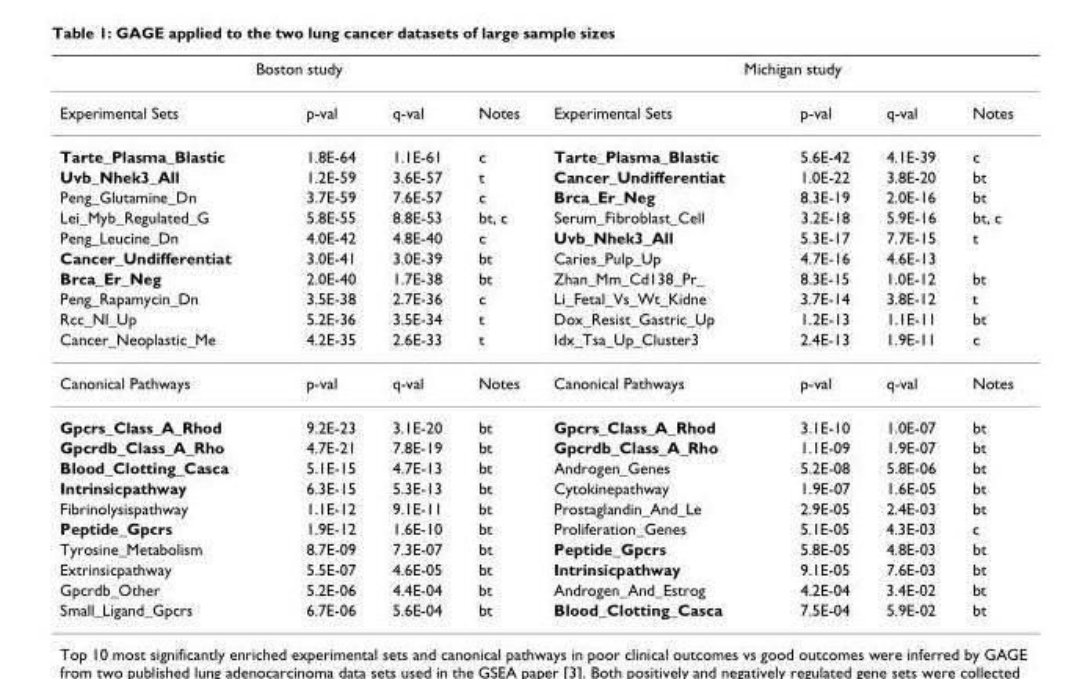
<table><thead><tr><td colspan="4">Boston study</td><td colspan="4">Michigan study</td></tr><tr><td>Experimental Sets</td><td>p-val</td><td>q-val</td><td>Notes</td><td>Experimental Sets</td><td>p-val</td><td>q-val</td><td>Notes</td></tr></thead><tbody><tr><td>Tarte_Plasma_Blastic</td><td>1.8E-64</td><td>1.1E-61</td><td>c</td><td>Tarte_Plasma_Blastic</td><td>5.6E-42</td><td>4.1E-39</td><td>c</td></tr><tr><td>Uvb_Nhek3_All</td><td>1.2E-59</td><td>3.6E-57</td><td>t</td><td>Cancer_Undifferentiat</td><td>1.0E-22</td><td>3.8E-20</td><td>bt</td></tr><tr><td>Peng_Glutamine_Dn</td><td>3.7E-59</td><td>7.6E-57</td><td>c</td><td>Brca_Er_Neg</td><td>8.3E-19</td><td>2.0E-16</td><td>bt</td></tr><tr><td>Lei_Myb_Regulated_G</td><td>5.8E-55</td><td>8.8E-53</td><td>bt, c</td><td>Serum_Fibroblast_Cell</td><td>3.2E-18</td><td>5.9E-16</td><td>bt, c</td></tr><tr><td>Peng_Leucine_Dn</td><td>4.0E-42</td><td>4.8E-40</td><td>c</td><td>Uvb_Nhek3_All</td><td>5.3E-17</td><td>7.7E-15</td><td>t</td></tr><tr><td>Cancer_Undifferentiat</td><td>3.0E-41</td><td>3.0E-39</td><td>bt</td><td>Caries_Pulp_Up</td><td>4.7E-16</td><td>4.6E-13</td><td></td></tr><tr><td>Brca_Er_Neg</td><td>2.0E-40</td><td>1.7E-38</td><td>bt</td><td>Zhan_Mm_Cd138_Pr_</td><td>8.3E-15</td><td>1.0E-12</td><td>bt</td></tr><tr><td>Peng_Rapamycin_Dn</td><td>3.5E-38</td><td>2.7E-36</td><td>c</td><td>Li_Fetal_Vs_Wt_Kidne</td><td>3.7E-14</td><td>3.8E-12</td><td>t</td></tr><tr><td>Rcc_Nl_Up</td><td>5.2E-36</td><td>3.5E-34</td><td>t</td><td>Dox_Resist_Gastric_Up</td><td>1.2E-13</td><td>1.1E-11</td><td>bt</td></tr><tr><td>Cancer_Neoplastic_Me</td><td>4.2E-35</td><td>2.6E-33</td><td>t</td><td>Idx_Tsa_Up_Cluster3</td><td>2.4E-13</td><td>1.9E-11</td><td>c</td></tr><tr><td>Canonical Pathways</td><td>p-val</td><td>q-val</td><td>Notes</td><td>Canonical Pathways</td><td>p-val</td><td>q-val</td><td>Notes</td></tr><tr><td>Gpcrs_Class_A_Rhod</td><td>9.2E-23</td><td>3.1E-20</td><td>bt</td><td>Gpcrs_Class_A_Rhod</td><td>3.1E-10</td><td>1.0E-07</td><td>bt</td></tr><tr><td>Gpcrdb_Class_A_Rho</td><td>4.7E-21</td><td>7.8E-19</td><td>bt</td><td>Gpcrdb_Class_A_Rho</td><td>1.1E-09</td><td>1.9E-07</td><td>bt</td></tr><tr><td>Blood_Clotting_Casca</td><td>5.1E-15</td><td>4.7E-13</td><td>bt</td><td>Androgen_Genes</td><td>5.2E-08</td><td>5.8E-06</td><td>bt</td></tr><tr><td>Intrinsicpathway</td><td>6.3E-15</td><td>5.3E-13</td><td>bt</td><td>Cytokinepathway</td><td>1.9E-07</td><td>1.6E-05</td><td>bt</td></tr><tr><td>Fibrinolysispathway</td><td>1.1E-12</td><td>9.1E-11</td><td>bt</td><td>Prostaglandin_And_Le</td><td>2.9E-05</td><td>2.4E-03</td><td>bt</td></tr><tr><td>Peptide_Gpcrs</td><td>1.9E-12</td><td>1.6E-10</td><td>bt</td><td>Proliferation_Genes</td><td>5.1E-05</td><td>4.3E-03</td><td>c</td></tr><tr><td>Tyrosine_Metabolism</td><td>8.7E-09</td><td>7.3E-07</td><td>bt</td><td>Peptide_Gpcrs</td><td>5.8E-05</td><td>4.8E-03</td><td>bt</td></tr><tr><td>Extrinsicpathway</td><td>5.5E-07</td><td>4.6E-05</td><td>bt</td><td>Intrinsicpathway</td><td>9.1E-05</td><td>7.6E-03</td><td>bt</td></tr><tr><td>Gpcrdb_Other</td><td>5.2E-06</td><td>4.4E-04</td><td>bt</td><td>Androgen_And_Estrog</td><td>4.2E-04</td><td>3.4E-02</td><td>bt</td></tr><tr><td>Small_Ligand_Gpcrs</td><td>6.7E-06</td><td>5.6E-04</td><td>bt</td><td>Blood_Clotting_Casca</td><td>7.5E-04</td><td>5.9E-02</td><td>bt</td></tr></tbody></table>